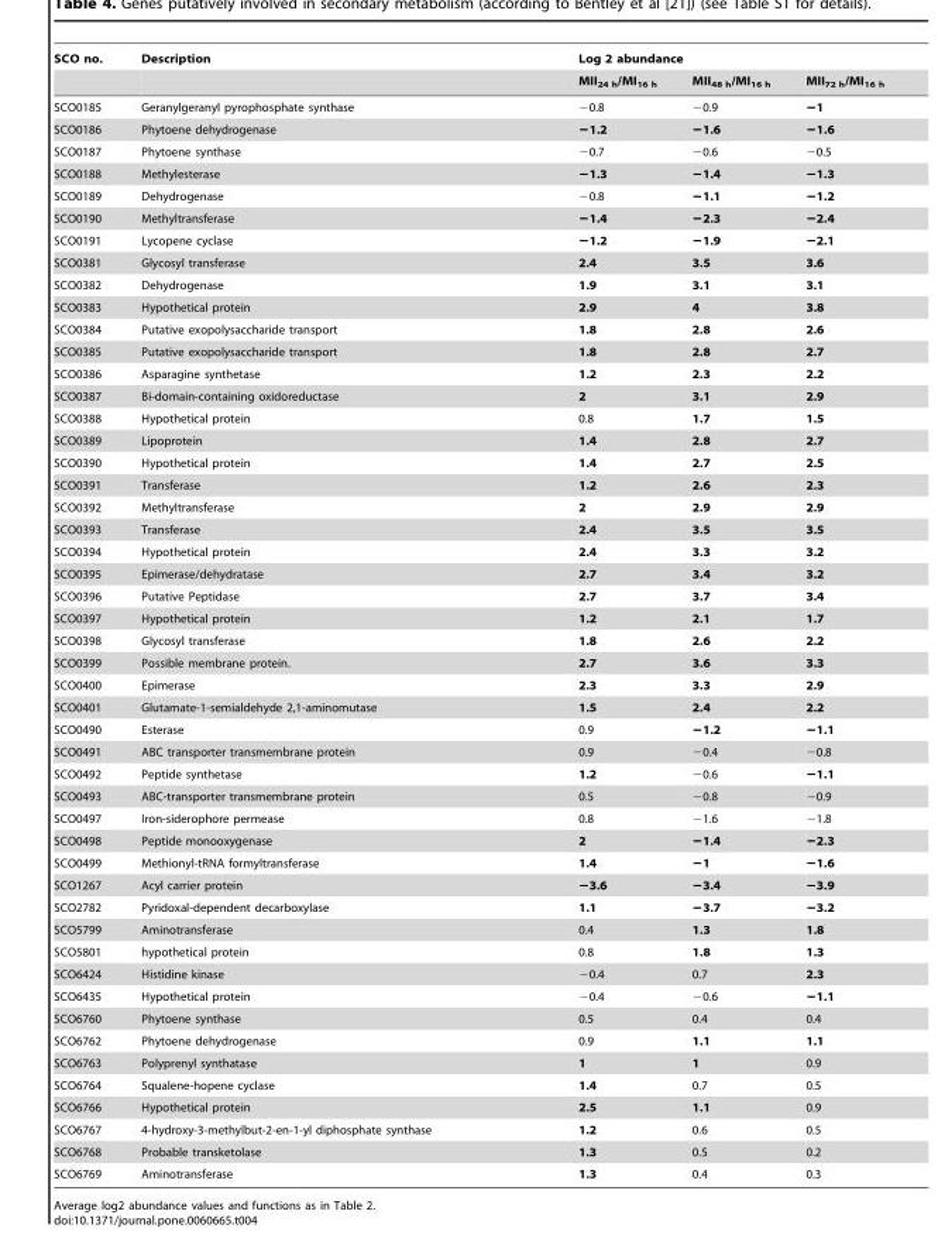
<table><thead><tr><td rowspan="2">SCO no.</td><td rowspan="2">Description</td><td colspan="3">Log 2 abundance</td></tr><tr><td>MII<sub>24 h</sub>/MI<sub>16 h</sub></td><td>MII<sub>48 h</sub>/MI<sub>16 h</sub></td><td>MII<sub>72 h</sub>/MI<sub>16 h</sub></td></tr></thead><tbody><tr><td>SCO0185</td><td>Geranylgeranyl pyrophosphate synthase</td><td>−0.8</td><td>−0.9</td><td>−1</td></tr><tr><td>SCO0186</td><td>Phytoene dehydrogenase</td><td>−1.2</td><td>−1.6</td><td>−1.6</td></tr><tr><td>SCO0187</td><td>Phytoene synthase</td><td>−0.7</td><td>−0.6</td><td>−0.5</td></tr><tr><td>SCO0188</td><td>Methylesterase</td><td>−1.3</td><td>−1.4</td><td>−1.3</td></tr><tr><td>SCO0189</td><td>Dehydrogenase</td><td>−0.8</td><td>−1.1</td><td>−1.2</td></tr><tr><td>SCO0190</td><td>Methyltransferase</td><td>−1.4</td><td>−2.3</td><td>−2.4</td></tr><tr><td>SCO0191</td><td>Lycopene cyclase</td><td>−1.2</td><td>−1.9</td><td>−2.1</td></tr><tr><td>SCO0381</td><td>Glycosyl transferase</td><td>2.4</td><td>3.5</td><td>3.6</td></tr><tr><td>SCO0382</td><td>Dehydrogenase</td><td>1.9</td><td>3.1</td><td>3.1</td></tr><tr><td>SCO0383</td><td>Hypothetical protein</td><td>2.9</td><td>4</td><td>3.8</td></tr><tr><td>SCO0384</td><td>Putative exopolysaccharide transport</td><td>1.8</td><td>2.8</td><td>2.6</td></tr><tr><td>SCO0385</td><td>Putative exopolysaccharide transport</td><td>1.8</td><td>2.8</td><td>2.7</td></tr><tr><td>SCO0386</td><td>Asparagine synthetase</td><td>1.2</td><td>2.3</td><td>2.2</td></tr><tr><td>SCO0387</td><td>Bi-domain-containing oxidoreductase</td><td>2</td><td>3.1</td><td>2.9</td></tr><tr><td>SCO0388</td><td>Hypothetical protein</td><td>0.8</td><td>1.7</td><td>1.5</td></tr><tr><td>SCO0389</td><td>Lipoprotein</td><td>1.4</td><td>2.8</td><td>2.7</td></tr><tr><td>SCO0390</td><td>Hypothetical protein</td><td>1.4</td><td>2.7</td><td>2.5</td></tr><tr><td>SCO0391</td><td>Transferase</td><td>1.2</td><td>2.6</td><td>2.3</td></tr><tr><td>SCO0392</td><td>Methyltransferase</td><td>2</td><td>2.9</td><td>2.9</td></tr><tr><td>SCO0393</td><td>Transferase</td><td>2.4</td><td>3.5</td><td>3.5</td></tr><tr><td>SCO0394</td><td>Hypothetical protein</td><td>2.4</td><td>3.3</td><td>3.2</td></tr><tr><td>SCO0395</td><td>Epimerase/dehydratase</td><td>2.7</td><td>3.4</td><td>3.2</td></tr><tr><td>SCO0396</td><td>Putative Peptidase</td><td>2.7</td><td>3.7</td><td>3.4</td></tr><tr><td>SCO0397</td><td>Hypothetical protein</td><td>1.2</td><td>2.1</td><td>1.7</td></tr><tr><td>SCO0398</td><td>Glycosyl transferase</td><td>1.8</td><td>2.6</td><td>2.2</td></tr><tr><td>SCO0399</td><td>Possible membrane protein.</td><td>2.7</td><td>3.6</td><td>3.3</td></tr><tr><td>SCO0400</td><td>Epimerase</td><td>2.3</td><td>3.3</td><td>2.9</td></tr><tr><td>SCO0401</td><td>Glutamate-1-semialdehyde 2,1-aminomutase</td><td>1.5</td><td>2.4</td><td>2.2</td></tr><tr><td>SCO0490</td><td>Esterase</td><td>0.9</td><td>−1.2</td><td>−1.1</td></tr><tr><td>SCO0491</td><td>ABC transporter transmembrane protein</td><td>0.9</td><td>−0.4</td><td>−0.8</td></tr><tr><td>SCO0492</td><td>Peptide synthetase</td><td>1.2</td><td>−0.6</td><td>−1.1</td></tr><tr><td>SCO0493</td><td>ABC-transporter transmembrane protein</td><td>0.5</td><td>−0.8</td><td>−0.9</td></tr><tr><td>SCO0497</td><td>Iron-siderophore permease</td><td>0.8</td><td>−1.6</td><td>−1.8</td></tr><tr><td>SCO0498</td><td>Peptide monooxygenase</td><td>2</td><td>−1.4</td><td>−2.3</td></tr><tr><td>SCO0499</td><td>Methionyl-tRNA formyltransferase</td><td>1.4</td><td>−1</td><td>−1.6</td></tr><tr><td>SCO1267</td><td>Acyl carrier protein</td><td>−3.6</td><td>−3.4</td><td>−3.9</td></tr><tr><td>SCO2782</td><td>Pyridoxal-dependent decarboxylase</td><td>1.1</td><td>−3.7</td><td>−3.2</td></tr><tr><td>SCO5799</td><td>Aminotransferase</td><td>0.4</td><td>1.3</td><td>1.8</td></tr><tr><td>SCO5801</td><td>hypothetical protein</td><td>0.8</td><td>1.8</td><td>1.3</td></tr><tr><td>SCO6424</td><td>Histidine kinase</td><td>−0.4</td><td>0.7</td><td>2.3</td></tr><tr><td>SCO6435</td><td>Hypothetical protein</td><td>−0.4</td><td>−0.6</td><td>−1.1</td></tr><tr><td>SCO6760</td><td>Phytoene synthase</td><td>0.5</td><td>0.4</td><td>0.4</td></tr><tr><td>SCO6762</td><td>Phytoene dehydrogenase</td><td>0.9</td><td>1.1</td><td>1.1</td></tr><tr><td>SCO6763</td><td>Polyprenyl synthatase</td><td>1</td><td>1</td><td>0.9</td></tr><tr><td>SCO6764</td><td>Squalene-hopene cyclase</td><td>1.4</td><td>0.7</td><td>0.5</td></tr><tr><td>SCO6766</td><td>Hypothetical protein</td><td>2.5</td><td>1.1</td><td>0.9</td></tr><tr><td>SCO6767</td><td>4-hydroxy-3-methylbut-2-en-1-yl diphosphate synthase</td><td>1.2</td><td>0.6</td><td>0.5</td></tr><tr><td>SCO6768</td><td>Probable transketolase</td><td>1.3</td><td>0.5</td><td>0.2</td></tr><tr><td>SCO6769</td><td>Aminotransferase</td><td>1.3</td><td>0.4</td><td>0.3</td></tr></tbody></table>